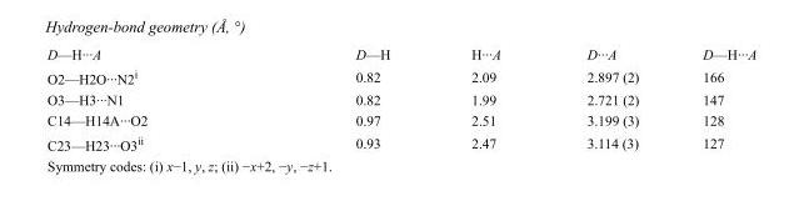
<table><tbody><tr><td>D—H···A</td><td>D—H</td><td>H···A</td><td>D···A</td><td>D—H···A</td></tr><tr><td>O2—H2O···N2<sup>i</sup></td><td>0.82</td><td>2.09</td><td>2.897 (2)</td><td>166</td></tr><tr><td>O3—H3···N1</td><td>0.82</td><td>1.99</td><td>2.721 (2)</td><td>147</td></tr><tr><td>C14—H14A···O2</td><td>0.97</td><td>2.51</td><td>3.199 (3)</td><td>128</td></tr><tr><td>C23—H23···O3<sup>ii</sup></td><td>0.93</td><td>2.47</td><td>3.114 (3)</td><td>127</td></tr></tbody></table>